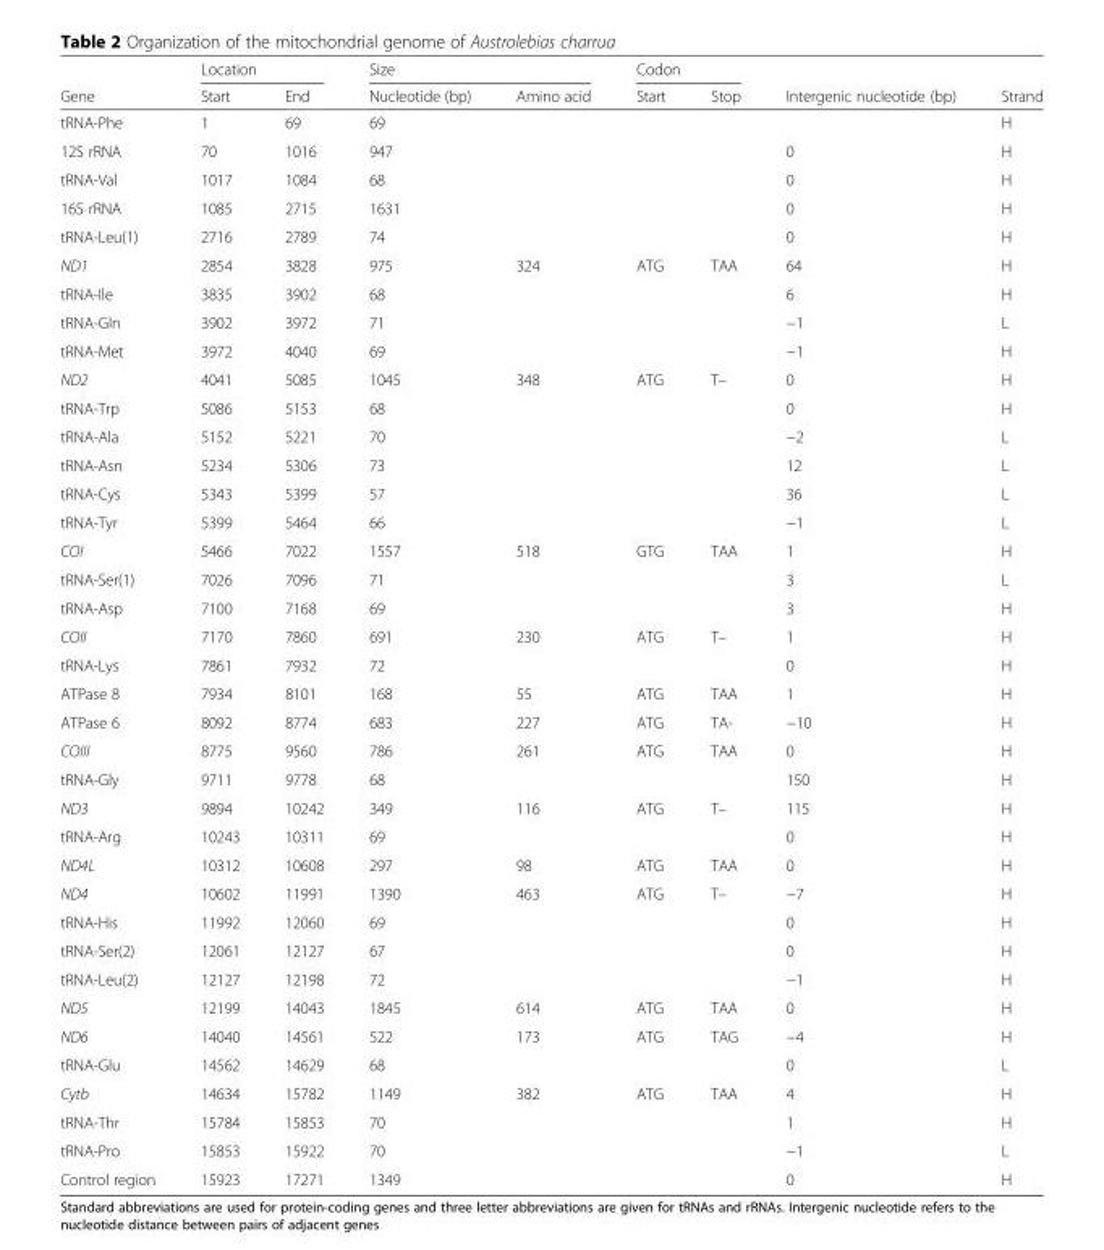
<table><thead><tr><td rowspan="2">Gene</td><td colspan="2">Location</td><td colspan="2">Size</td><td colspan="2">Codon</td><td rowspan="2">Intergenic nucleotide (bp)</td><td rowspan="2">Strand</td></tr><tr><td>Start</td><td>End</td><td>Nucleotide (bp)</td><td>Amino acid</td><td>Start</td><td>Stop</td></tr></thead><tbody><tr><td>tRNA-Phe</td><td>1</td><td>69</td><td>69</td><td></td><td></td><td></td><td></td><td>H</td></tr><tr><td>12S rRNA</td><td>70</td><td>1016</td><td>947</td><td></td><td></td><td></td><td>0</td><td>H</td></tr><tr><td>tRNA-Val</td><td>1017</td><td>1084</td><td>68</td><td></td><td></td><td></td><td>0</td><td>H</td></tr><tr><td>16S rRNA</td><td>1085</td><td>2715</td><td>1631</td><td></td><td></td><td></td><td>0</td><td>H</td></tr><tr><td>tRNA-Leu(1)</td><td>2716</td><td>2789</td><td>74</td><td></td><td></td><td></td><td>0</td><td>H</td></tr><tr><td>ND1</td><td>2854</td><td>3828</td><td>975</td><td>324</td><td>ATG</td><td>TAA</td><td>64</td><td>H</td></tr><tr><td>tRNA-Ile</td><td>3835</td><td>3902</td><td>68</td><td></td><td></td><td></td><td>6</td><td>H</td></tr><tr><td>tRNA-Gln</td><td>3902</td><td>3972</td><td>71</td><td></td><td></td><td></td><td>−1</td><td>L</td></tr><tr><td>tRNA-Met</td><td>3972</td><td>4040</td><td>69</td><td></td><td></td><td></td><td>−1</td><td>H</td></tr><tr><td>ND2</td><td>4041</td><td>5085</td><td>1045</td><td>348</td><td>ATG</td><td>T–</td><td>0</td><td>H</td></tr><tr><td>tRNA-Trp</td><td>5086</td><td>5153</td><td>68</td><td></td><td></td><td></td><td>0</td><td>H</td></tr><tr><td>tRNA-Ala</td><td>5152</td><td>5221</td><td>70</td><td></td><td></td><td></td><td>−2</td><td>L</td></tr><tr><td>tRNA-Asn</td><td>5234</td><td>5306</td><td>73</td><td></td><td></td><td></td><td>12</td><td>L</td></tr><tr><td>tRNA-Cys</td><td>5343</td><td>5399</td><td>57</td><td></td><td></td><td></td><td>36</td><td>L</td></tr><tr><td>tRNA-Tyr</td><td>5399</td><td>5464</td><td>66</td><td></td><td></td><td></td><td>−1</td><td>L</td></tr><tr><td>COI</td><td>5466</td><td>7022</td><td>1557</td><td>518</td><td>GTG</td><td>TAA</td><td>1</td><td>H</td></tr><tr><td>tRNA-Ser(1)</td><td>7026</td><td>7096</td><td>71</td><td></td><td></td><td></td><td>3</td><td>L</td></tr><tr><td>tRNA-Asp</td><td>7100</td><td>7168</td><td>69</td><td></td><td></td><td></td><td>3</td><td>H</td></tr><tr><td>COII</td><td>7170</td><td>7860</td><td>691</td><td>230</td><td>ATG</td><td>T–</td><td>1</td><td>H</td></tr><tr><td>tRNA-Lys</td><td>7861</td><td>7932</td><td>72</td><td></td><td></td><td></td><td>0</td><td>H</td></tr><tr><td>ATPase 8</td><td>7934</td><td>8101</td><td>168</td><td>55</td><td>ATG</td><td>TAA</td><td>1</td><td>H</td></tr><tr><td>ATPase 6</td><td>8092</td><td>8774</td><td>683</td><td>227</td><td>ATG</td><td>TA-</td><td>−10</td><td>H</td></tr><tr><td>COIII</td><td>8775</td><td>9560</td><td>786</td><td>261</td><td>ATG</td><td>TAA</td><td>0</td><td>H</td></tr><tr><td>tRNA-Gly</td><td>9711</td><td>9778</td><td>68</td><td></td><td></td><td></td><td>150</td><td>H</td></tr><tr><td>ND3</td><td>9894</td><td>10242</td><td>349</td><td>116</td><td>ATG</td><td>T–</td><td>115</td><td>H</td></tr><tr><td>tRNA-Arg</td><td>10243</td><td>10311</td><td>69</td><td></td><td></td><td></td><td>0</td><td>H</td></tr><tr><td>ND4L</td><td>10312</td><td>10608</td><td>297</td><td>98</td><td>ATG</td><td>TAA</td><td>0</td><td>H</td></tr><tr><td>ND4</td><td>10602</td><td>11991</td><td>1390</td><td>463</td><td>ATG</td><td>T–</td><td>−7</td><td>H</td></tr><tr><td>tRNA-His</td><td>11992</td><td>12060</td><td>69</td><td></td><td></td><td></td><td>0</td><td>H</td></tr><tr><td>tRNA-Ser(2)</td><td>12061</td><td>12127</td><td>67</td><td></td><td></td><td></td><td>0</td><td>H</td></tr><tr><td>tRNA-Leu(2)</td><td>12127</td><td>12198</td><td>72</td><td></td><td></td><td></td><td>−1</td><td>H</td></tr><tr><td>ND5</td><td>12199</td><td>14043</td><td>1845</td><td>614</td><td>ATG</td><td>TAA</td><td>0</td><td>H</td></tr><tr><td>ND6</td><td>14040</td><td>14561</td><td>522</td><td>173</td><td>ATG</td><td>TAG</td><td>−4</td><td>H</td></tr><tr><td>tRNA-Glu</td><td>14562</td><td>14629</td><td>68</td><td></td><td></td><td></td><td>0</td><td>L</td></tr><tr><td>Cytb</td><td>14634</td><td>15782</td><td>1149</td><td>382</td><td>ATG</td><td>TAA</td><td>4</td><td>H</td></tr><tr><td>tRNA-Thr</td><td>15784</td><td>15853</td><td>70</td><td></td><td></td><td></td><td>1</td><td>H</td></tr><tr><td>tRNA-Pro</td><td>15853</td><td>15922</td><td>70</td><td></td><td></td><td></td><td>−1</td><td>L</td></tr><tr><td>Control region</td><td>15923</td><td>17271</td><td>1349</td><td></td><td></td><td></td><td>0</td><td>H</td></tr></tbody></table>